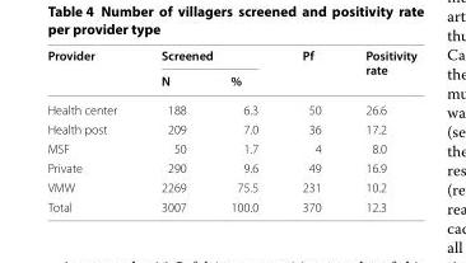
<table><thead><tr><td rowspan="2">Provider</td><td colspan="2">Screened</td><td rowspan="2">Pf</td><td rowspan="2">Positivity rate</td></tr><tr><td>N</td><td>%</td></tr></thead><tbody><tr><td>Health center</td><td>188</td><td>6.3</td><td>50</td><td>26.6</td></tr><tr><td>Health post</td><td>209</td><td>7.0</td><td>36</td><td>17.2</td></tr><tr><td>MSF</td><td>50</td><td>1.7</td><td>4</td><td>8.0</td></tr><tr><td>Private</td><td>290</td><td>9.6</td><td>49</td><td>16.9</td></tr><tr><td>VMW</td><td>2269</td><td>75.5</td><td>231</td><td>10.2</td></tr><tr><td>Total</td><td>3007</td><td>100.0</td><td>370</td><td>12.3</td></tr></tbody></table>